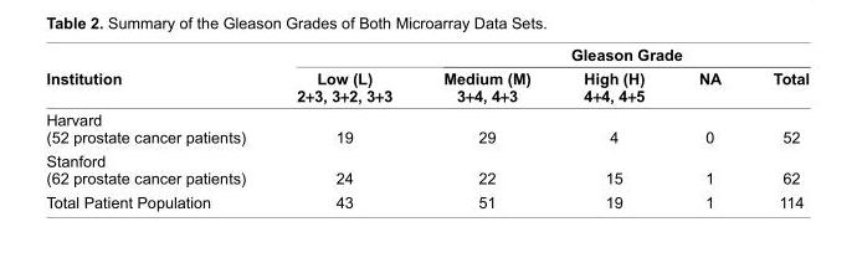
<table><thead><tr><td rowspan="2">Institution</td><td colspan="5">Gleason Grade</td></tr><tr><td>Low (L) 2+3, 3+2, 3+3</td><td>Medium (M) 3+4, 4+3</td><td>High (H) 4+4, 4+5</td><td>NA</td><td>Total</td></tr></thead><tbody><tr><td>Harvard (52 prostate cancer patients)</td><td>19</td><td>29</td><td>4</td><td>0</td><td>52</td></tr><tr><td>Stanford (62 prostate cancer patients)</td><td>24</td><td>22</td><td>15</td><td>1</td><td>62</td></tr><tr><td>Total Patient Population</td><td>43</td><td>51</td><td>19</td><td>1</td><td>114</td></tr></tbody></table>